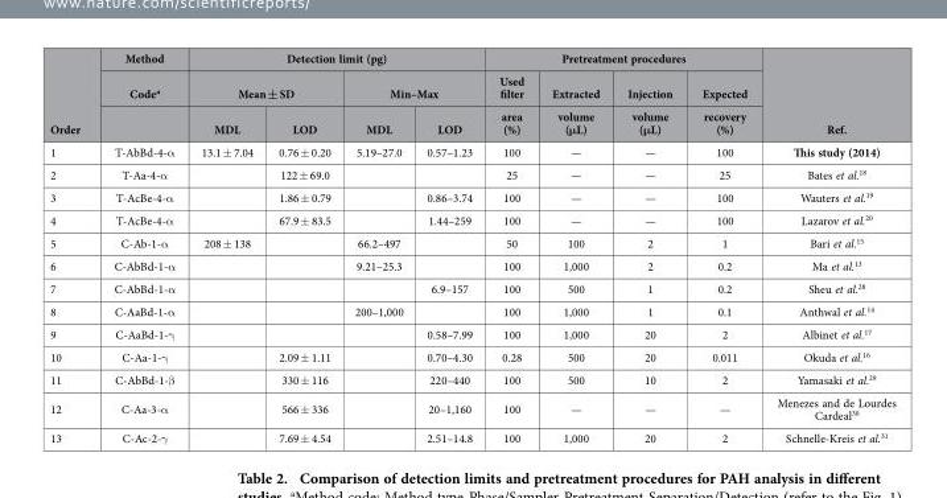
<table><thead><tr><td rowspan="3">Order</td><td rowspan="3">Method Code<sup>a</sup></td><td colspan="4">Detection limit (pg)</td><td colspan="4">Pretreatment procedures</td><td rowspan="3">Ref.</td></tr><tr><td colspan="2">Mean ± SD</td><td colspan="2">Min–Max</td><td rowspan="2">Used filter area (%)</td><td rowspan="2">Extracted volume (μL)</td><td rowspan="2">Injection volume (μL)</td><td rowspan="2">Expected recovery (%)</td></tr><tr><td>MDL</td><td>LOD</td><td>MDL</td><td>LOD</td></tr></thead><tbody><tr><td>1</td><td>T-AbBd-4-α</td><td>13.1 ± 7.04</td><td>0.76 ± 0.20</td><td>5.19–27.0</td><td>0.57–1.23</td><td>100</td><td>—</td><td>—</td><td>100</td><td>This study (2014)</td></tr><tr><td>2</td><td>T-Aa-4-α</td><td></td><td>122 ± 69.0</td><td></td><td></td><td>25</td><td>—</td><td>—</td><td>25</td><td>Bates et al.<sup>18</sup></td></tr><tr><td>3</td><td>T-AcBe-4-α</td><td></td><td>1.86 ± 0.79</td><td></td><td>0.86–3.74</td><td>100</td><td>—</td><td>—</td><td>100</td><td>Wauters et al.<sup>19</sup></td></tr><tr><td>4</td><td>T-AcBe-4-α</td><td></td><td>67.9 ± 83.5</td><td></td><td>1.44–259</td><td>100</td><td>—</td><td>—</td><td>100</td><td>Lazarov et al.<sup>20</sup></td></tr><tr><td>5</td><td>C-Ab-1-α</td><td>208 ± 138</td><td></td><td>66.2–497</td><td></td><td>50</td><td>100</td><td>2</td><td>1</td><td>Bari et al.<sup>15</sup></td></tr><tr><td>6</td><td>C-AbBd-1-α</td><td></td><td></td><td>9.21–25.3</td><td></td><td>100</td><td>1,000</td><td>2</td><td>0.2</td><td>Ma et al.<sup>13</sup></td></tr><tr><td>7</td><td>C-AbBd-1-α</td><td></td><td></td><td></td><td>6.9–157</td><td>100</td><td>500</td><td>1</td><td>0.2</td><td>Sheu et al.<sup>28</sup></td></tr><tr><td>8</td><td>C-AaBd-1-α</td><td></td><td></td><td>200–1,000</td><td></td><td>100</td><td>1,000</td><td>1</td><td>0.1</td><td>Anthwal et al.<sup>14</sup></td></tr><tr><td>9</td><td>C-AaBd-1-γ</td><td></td><td></td><td></td><td>0.58–7.99</td><td>100</td><td>1,000</td><td>20</td><td>2</td><td>Albinet et al.<sup>17</sup></td></tr><tr><td>10</td><td>C-Aa-1-γ</td><td></td><td>2.09 ± 1.11</td><td></td><td>0.70–4.30</td><td>0.28</td><td>500</td><td>20</td><td>0.011</td><td>Okuda et al.<sup>16</sup></td></tr><tr><td>11</td><td>C-AbBd-1-β</td><td></td><td>330 ± 116</td><td></td><td>220–440</td><td>100</td><td>500</td><td>10</td><td>2</td><td>Yamasaki et al.<sup>29</sup></td></tr><tr><td>12</td><td>C-Aa-3-α</td><td></td><td>566 ± 336</td><td></td><td>20–1,160</td><td>100</td><td>—</td><td>—</td><td>—</td><td>Menezes and de Lourdes Cardeal<sup>30</sup></td></tr><tr><td>13</td><td>C-Ac-2-γ</td><td></td><td>7.69 ± 4.54</td><td></td><td>2.51–14.8</td><td>100</td><td>1,000</td><td>20</td><td>2</td><td>Schnelle-Kreis et al.<sup>31</sup></td></tr></tbody></table>